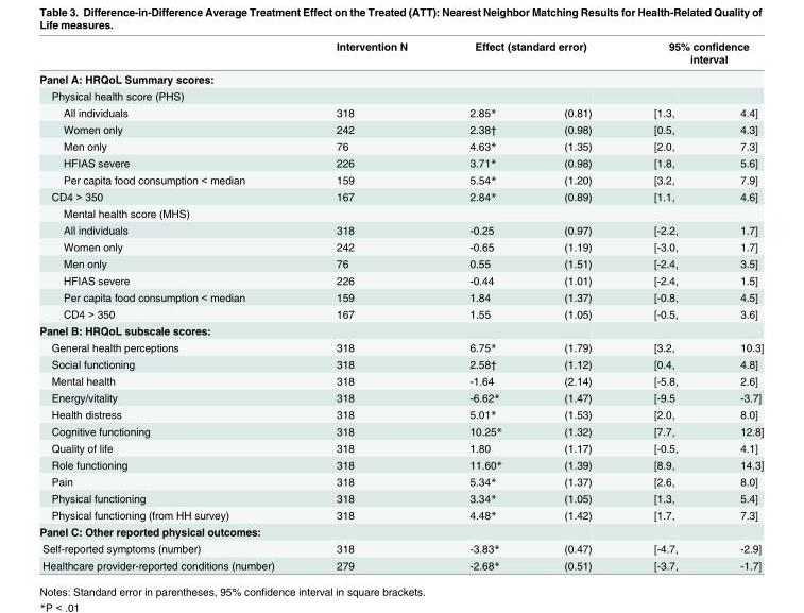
<table><thead><tr><td rowspan="3">Panel A: HRQoL Summary scores: Physical health score (PHS)</td><td rowspan="3">Intervention N</td><td rowspan="2" colspan="2">Effect (standard error)</td><td rowspan="2" colspan="2">95% confidence interval</td></tr><tr></tr><tr><td></td><td></td><td></td><td></td></tr></thead><tbody><tr><td>All individuals</td><td>318</td><td>2.85*</td><td>(0.81)</td><td>[1.3,</td><td>4.4]</td></tr><tr><td>Women only</td><td>242</td><td>2.38†</td><td>(0.98)</td><td>[0.5,</td><td>4.3]</td></tr><tr><td>Men only</td><td>76</td><td>4.63*</td><td>(1.35)</td><td>[2.0,</td><td>7.3]</td></tr><tr><td>HFIAS severe</td><td>226</td><td>3.71*</td><td>(0.98)</td><td>[1.8,</td><td>5.6]</td></tr><tr><td>Per capita food consumption &lt; median</td><td>159</td><td>5.54*</td><td>(1.20)</td><td>[3.2,</td><td>7.9]</td></tr><tr><td>CD4 &gt; 350</td><td>167</td><td>2.84*</td><td>(0.89)</td><td>[1.1,</td><td>4.6]</td></tr><tr><td colspan="6">Mental health score (MHS)</td></tr><tr><td>All individuals</td><td>318</td><td>-0.25</td><td>(0.97)</td><td>[-2.2,</td><td>1.7]</td></tr><tr><td>Women only</td><td>242</td><td>-0.65</td><td>(1.19)</td><td>[-3.0,</td><td>1.7]</td></tr><tr><td>Men only</td><td>76</td><td>0.55</td><td>(1.51)</td><td>[-2.4,</td><td>3.5]</td></tr><tr><td>HFIAS severe</td><td>226</td><td>-0.44</td><td>(1.01)</td><td>[-2.4,</td><td>1.5]</td></tr><tr><td>Per capita food consumption &lt; median</td><td>159</td><td>1.84</td><td>(1.37)</td><td>[-0.8,</td><td>4.5]</td></tr><tr><td>CD4 &gt; 350</td><td>167</td><td>1.55</td><td>(1.05)</td><td>[-0.5,</td><td>3.6]</td></tr><tr><td colspan="6">Panel B: HRQoL subscale scores:</td></tr><tr><td>General health perceptions</td><td>318</td><td>6.75*</td><td>(1.79)</td><td>[3.2,</td><td>10.3]</td></tr><tr><td>Social functioning</td><td>318</td><td>2.58†</td><td>(1.12)</td><td>[0.4,</td><td>4.8]</td></tr><tr><td>Mental health</td><td>318</td><td>-1.64</td><td>(2.14)</td><td>[-5.8,</td><td>2.6]</td></tr><tr><td>Energy/vitality</td><td>318</td><td>-6.62*</td><td>(1.47)</td><td>[-9.5</td><td>-3.7]</td></tr><tr><td>Health distress</td><td>318</td><td>5.01*</td><td>(1.53)</td><td>[2.0,</td><td>8.0]</td></tr><tr><td>Cognitive functioning</td><td>318</td><td>10.25*</td><td>(1.32)</td><td>[7.7,</td><td>12.8]</td></tr><tr><td>Quality of life</td><td>318</td><td>1.80</td><td>(1.17)</td><td>[-0.5,</td><td>4.1]</td></tr><tr><td>Role functioning</td><td>318</td><td>11.60*</td><td>(1.39)</td><td>[8.9,</td><td>14.3]</td></tr><tr><td>Pain</td><td>318</td><td>5.34*</td><td>(1.37)</td><td>[2.6,</td><td>8.0]</td></tr><tr><td>Physical functioning</td><td>318</td><td>3.34*</td><td>(1.05)</td><td>[1.3,</td><td>5.4]</td></tr><tr><td>Physical functioning (from HH survey)</td><td>318</td><td>4.48*</td><td>(1.42)</td><td>[1.7,</td><td>7.3]</td></tr><tr><td colspan="6">Panel C: Other reported physical outcomes:</td></tr><tr><td>Self-reported symptoms (number)</td><td>318</td><td>-3.83*</td><td>(0.47)</td><td>[-4.7,</td><td>-2.9]</td></tr><tr><td>Healthcare provider-reported conditions (number)</td><td>279</td><td>-2.68*</td><td>(0.51)</td><td>[-3.7,</td><td>-1.7]</td></tr></tbody></table>